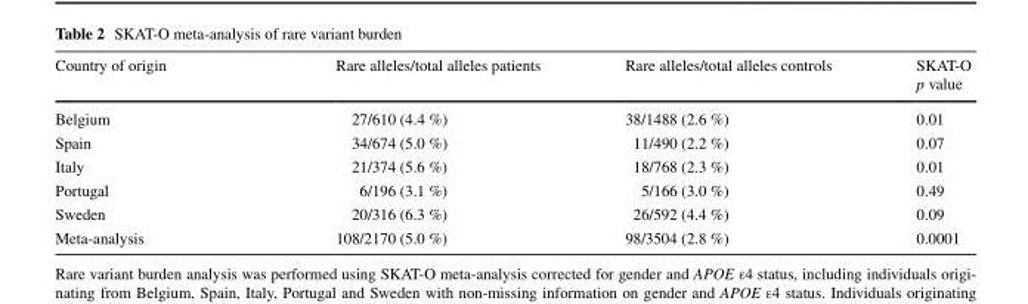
<table><thead><tr><td>Country of origin</td><td>Rare alleles/total alleles patients</td><td>Rare alleles/total alleles controls</td><td>SKAT-O p value</td></tr></thead><tbody><tr><td>Belgium</td><td>27/610 (4.4 %)</td><td>38/1488 (2.6 %)</td><td>0.01</td></tr><tr><td>Spain</td><td>34/674 (5.0 %)</td><td>11/490 (2.2 %)</td><td>0.07</td></tr><tr><td>Italy</td><td>21/374 (5.6 %)</td><td>18/768 (2.3 %)</td><td>0.01</td></tr><tr><td>Portugal</td><td>6/196 (3.1 %)</td><td>5/166 (3.0 %)</td><td>0.49</td></tr><tr><td>Sweden</td><td>20/316 (6.3 %)</td><td>26/592 (4.4 %)</td><td>0.09</td></tr><tr><td>Meta-analysis</td><td>108/2170 (5.0 %)</td><td>98/3504 (2.8 %)</td><td>0.0001</td></tr></tbody></table>